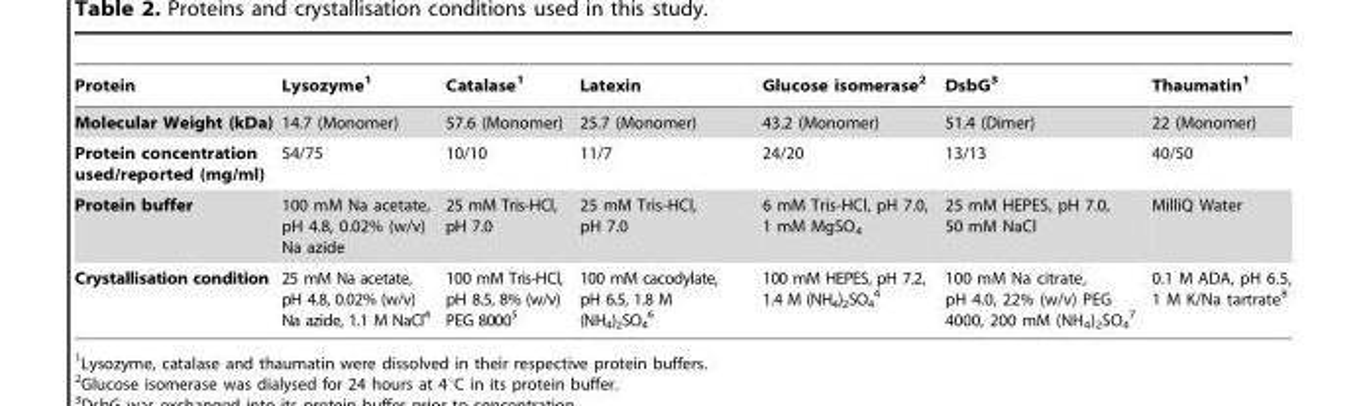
<table><thead><tr><td>Protein</td><td>Lysozyme<sup>1</sup></td><td>Catalase<sup>1</sup></td><td>Latexin</td><td>Glucose isomerase<sup>2</sup></td><td>DsbG<sup>3</sup></td><td>Thaumatin<sup>1</sup></td></tr></thead><tbody><tr><td>Molecular Weight (kDa)</td><td>14.7 (Monomer)</td><td>57.6 (Monomer)</td><td>25.7 (Monomer)</td><td>43.2 (Monomer)</td><td>51.4 (Dimer)</td><td>22 (Monomer)</td></tr><tr><td>Protein concentration used/reported (mg/ml)</td><td>54/75</td><td>10/10</td><td>11/7</td><td>24/20</td><td>13/13</td><td>40/50</td></tr><tr><td>Protein buffer</td><td>100 mM Na acetate, pH 4.8, 0.02% (w/v) Na azide</td><td>25 mM Tris-HCl, pH 7.0</td><td>25 mM Tris-HCl, pH 7.0</td><td>6 mM Tris-HCl, pH 7.0, 1 mM MgSO<sub>4</sub></td><td>25 mM HEPES, pH 7.0, 50 mM NaCl</td><td>MilliQ Water</td></tr><tr><td>Crystallisation condition</td><td>25 mM Na acetate, pH 4.8, 0.02% (w/v) Na azide, 1.1 M NaCl<sup>4</sup></td><td>100 mM Tris-HCl, pH 8.5, 8% (w/v) PEG 8000<sup>5</sup></td><td>100 mM cacodylate, pH 6.5, 1.8 M (NH<sub>4</sub>)<sub>2</sub>SO<sub>4</sub> 6</td><td>100 mM HEPES, pH 7.2, 1.4 M (NH<sub>4</sub>)<sub>2</sub>SO<sub>4</sub> 4</td><td>100 mM Na citrate, pH 4.0, 22% (w/v) PEG 4000, 200 mM (NH<sub>4</sub>)<sub>2</sub>SO<sub>4</sub> 7</td><td>0.1 M ADA, pH 6.5, 1 M K/Na tartrate<sup>8</sup></td></tr></tbody></table>